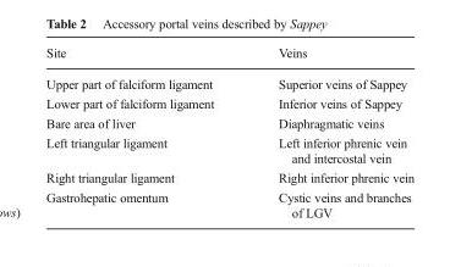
<table><thead><tr><td>Site</td><td>Veins</td></tr></thead><tbody><tr><td>Upper part of falciform ligament</td><td>Superior veins of Sappey</td></tr><tr><td>Lower part of falciform ligament</td><td>Inferior veins of Sappey</td></tr><tr><td>Bare area of liver</td><td>Diaphragmatic veins</td></tr><tr><td>Left triangular ligament</td><td>Left inferior phrenic vein and intercostal vein</td></tr><tr><td>Right triangular ligament</td><td>Right inferior phrenic vein</td></tr><tr><td>Gastrohepatic omentum</td><td>Cystic veins and branches of LGV</td></tr></tbody></table>